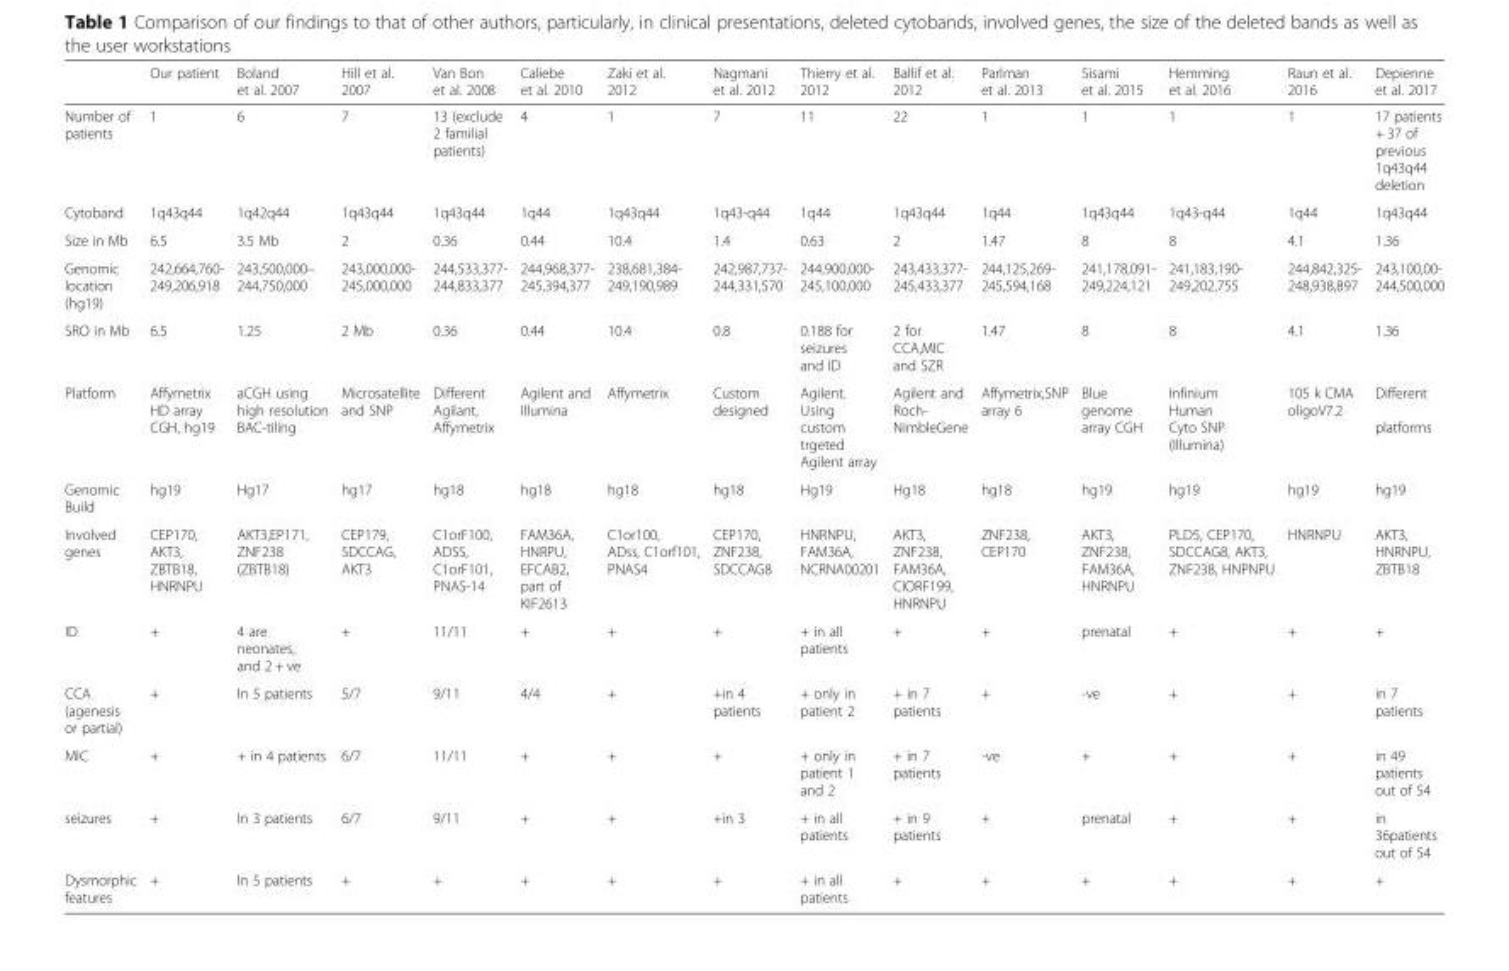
<table><thead><tr><td></td><td>Our patient</td><td>Boland et al. 2007</td><td>Hill et al. 2007</td><td>Van Bon et al. 2008</td><td>Caliebe et al. 2010</td><td>Zaki et al. 2012</td><td>Nagmani et al. 2012</td><td>Thierry et al. 2012</td><td>Ballif et al. 2012</td><td>Parlman et al. 2013</td><td>Sisami et al. 2015</td><td>Hemming et al. 2016</td><td>Raun et al. 2016</td><td>Depienne et al. 2017</td></tr></thead><tbody><tr><td>Number of patients</td><td>1</td><td>6</td><td>7</td><td>13 (exclude 2 familial patients)</td><td>4</td><td>1</td><td>7</td><td>11</td><td>22</td><td>1</td><td>1</td><td>1</td><td>1</td><td>17 patients + 37 of previous 1q43q44 deletion</td></tr><tr><td>Cytoband</td><td>1q43q44</td><td>1q42q44</td><td>1q43q44</td><td>1q43q44</td><td>1q44</td><td>1q43q44</td><td>1q43-q44</td><td>1q44</td><td>1q43q44</td><td>1q44</td><td>1q43q44</td><td>1q43-q44</td><td>1q44</td><td>1q43q44</td></tr><tr><td>Size in Mb</td><td>6.5</td><td>3.5 Mb</td><td>2</td><td>0.36</td><td>0.44</td><td>10.4</td><td>1.4</td><td>0.63</td><td>2</td><td>1.47</td><td>8</td><td>8</td><td>4.1</td><td>1.36</td></tr><tr><td>Genomic location (hg19)</td><td>242,664,760- 249,206,918</td><td>243,500,000– 244,750,000</td><td>243,000,000- 245,000,000</td><td>244,533,377- 244,833,377</td><td>244,968,377- 245,394,377</td><td>238,681,384- 249,190,989</td><td>242,987,737- 244,331,570</td><td>244,900,000- 245,100,000</td><td>243,433,377- 245,433,377</td><td>244,125,269- 245,594,168</td><td>241,178,091- 249,224,121</td><td>241,183,190- 249,202,755</td><td>244,842,325- 248,938,897</td><td>243,100,00- 244,500,000</td></tr><tr><td>SRO in Mb</td><td>6.5</td><td>1.25</td><td>2 Mb</td><td>0.36</td><td>0.44</td><td>10.4</td><td>0.8</td><td>0.188 for seizures and ID</td><td>2 for CCA,MIC and SZR</td><td>1.47</td><td>8</td><td>8</td><td>4.1</td><td>1.36</td></tr><tr><td>Platform</td><td>Affymetrix HD array CGH, hg19</td><td>aCGH using high resolution BAC-tiling</td><td>Microsatellite and SNP</td><td>Different Agilant, Affymetrix</td><td>Agilent and Illumina</td><td>Affymetrix</td><td>Custom designed</td><td>Agilent. Using custom trgeted Agilent array</td><td>Agilent and Roch- NimbleGene</td><td>Affymetrix,SNP array 6</td><td>Blue genome array CGH</td><td>Infinium Human Cyto SNP (Illumina)</td><td>105 k CMA oligoV7.2</td><td>Different platforms</td></tr><tr><td>Genomic Build</td><td>hg19</td><td>Hg17</td><td>hg17</td><td>hg18</td><td>hg18</td><td>hg18</td><td>hg18</td><td>Hg19</td><td>Hg18</td><td>hg18</td><td>hg19</td><td>hg19</td><td>hg19</td><td>hg19</td></tr><tr><td>Involved genes</td><td>CEP170, AKT3, ZBTB18, HNRNPU</td><td>AKT3,EP171, ZNF238 (ZBTB18)</td><td>CEP179, SDCCAG, AKT3</td><td>C1orF100, ADSS, C1orF101, PNAS-14</td><td>FAM36A, HNRPU, EFCAB2, part of KIF2613</td><td>C1or100, ADss, C1orf101, PNAS4</td><td>CEP170, ZNF238, SDCCAG8</td><td>HNRNPU, FAM36A, NCRNA00201</td><td>AKT3, ZNF238, FAM36A, CIORF199, HNRNPU</td><td>ZNF238, CEP170</td><td>AKT3, ZNF238, FAM36A, HNRNPU</td><td>PLD5, CEP170, SDCCAG8, AKT3, ZNF238, HNPNPU</td><td>HNRNPU</td><td>AKT3, HNRNPU, ZBTB18</td></tr><tr><td>ID</td><td>+</td><td>4 are neonates, and 2 + ve</td><td>+</td><td>11/11</td><td>+</td><td>+</td><td>+</td><td>+ in all patients</td><td>+</td><td>+</td><td>prenatal</td><td>+</td><td>+</td><td>+</td></tr><tr><td>CCA (agenesis or partial)</td><td>+</td><td>In 5 patients</td><td>5/7</td><td>9/11</td><td>4/4</td><td>+</td><td>+in 4 patients</td><td>+ only in patient 2</td><td>+ in 7 patients</td><td>+</td><td>-ve</td><td>+</td><td>+</td><td>in 7 patients</td></tr><tr><td>MIC</td><td>+</td><td>+ in 4 patients</td><td>6/7</td><td>11/11</td><td>+</td><td>+</td><td>+</td><td>+ only in patient 1 and 2</td><td>+ in 7 patients</td><td>-ve</td><td>+</td><td>+</td><td>+</td><td>in 49 patients out of 54</td></tr><tr><td>seizures</td><td>+</td><td>In 3 patients</td><td>6/7</td><td>9/11</td><td>+</td><td>+</td><td>+in 3</td><td>+ in all patients</td><td>+ in 9 patients</td><td>+</td><td>prenatal</td><td>+</td><td>+</td><td>in 36patients out of 54</td></tr><tr><td>Dysmorphic features</td><td>+</td><td>In 5 patients</td><td>+</td><td>+</td><td>+</td><td>+</td><td>+</td><td>+ in all patients</td><td>+</td><td>+</td><td>+</td><td>+</td><td>+</td><td>+</td></tr></tbody></table>